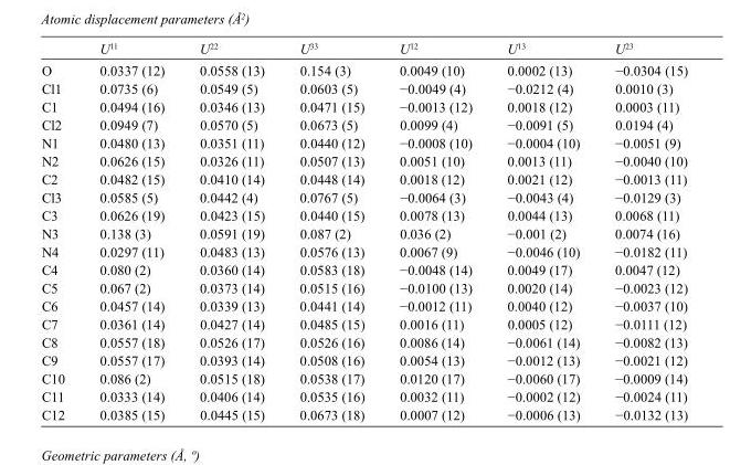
<table><thead><tr><td></td><td>U<sup>11</sup></td><td>U<sup>22</sup></td><td>U<sup>33</sup></td><td>U<sup>12</sup></td><td>U<sup>13</sup></td><td>U<sup>23</sup></td></tr></thead><tbody><tr><td>O</td><td>0.0337 (12)</td><td>0.0558 (13)</td><td>0.154 (3)</td><td>0.0049 (10)</td><td>0.0002 (13)</td><td>−0.0304 (15)</td></tr><tr><td>Cl1</td><td>0.0735 (6)</td><td>0.0549 (5)</td><td>0.0603 (5)</td><td>−0.0049 (4)</td><td>−0.0212 (4)</td><td>0.0010 (3)</td></tr><tr><td>C1</td><td>0.0494 (16)</td><td>0.0346 (13)</td><td>0.0471 (15)</td><td>−0.0013 (12)</td><td>0.0018 (12)</td><td>0.0003 (11)</td></tr><tr><td>Cl2</td><td>0.0949 (7)</td><td>0.0570 (5)</td><td>0.0673 (5)</td><td>0.0099 (4)</td><td>−0.0091 (5)</td><td>0.0194 (4)</td></tr><tr><td>N1</td><td>0.0480 (13)</td><td>0.0351 (11)</td><td>0.0440 (12)</td><td>−0.0008 (10)</td><td>−0.0004 (10)</td><td>−0.0051 (9)</td></tr><tr><td>N2</td><td>0.0626 (15)</td><td>0.0326 (11)</td><td>0.0507 (13)</td><td>0.0051 (10)</td><td>0.0013 (11)</td><td>−0.0040 (10)</td></tr><tr><td>C2</td><td>0.0482 (15)</td><td>0.0410 (14)</td><td>0.0448 (14)</td><td>0.0018 (12)</td><td>0.0021 (12)</td><td>−0.0013 (11)</td></tr><tr><td>Cl3</td><td>0.0585 (5)</td><td>0.0442 (4)</td><td>0.0767 (5)</td><td>−0.0064 (3)</td><td>−0.0043 (4)</td><td>−0.0129 (3)</td></tr><tr><td>C3</td><td>0.0626 (19)</td><td>0.0423 (15)</td><td>0.0440 (15)</td><td>0.0078 (13)</td><td>0.0044 (13)</td><td>0.0068 (11)</td></tr><tr><td>N3</td><td>0.138 (3)</td><td>0.0591 (19)</td><td>0.087 (2)</td><td>0.036 (2)</td><td>−0.001 (2)</td><td>0.0074 (16)</td></tr><tr><td>N4</td><td>0.0297 (11)</td><td>0.0483 (13)</td><td>0.0576 (13)</td><td>0.0067 (9)</td><td>−0.0046 (10)</td><td>−0.0182 (11)</td></tr><tr><td>C4</td><td>0.080 (2)</td><td>0.0360 (14)</td><td>0.0583 (18)</td><td>−0.0048 (14)</td><td>0.0049 (17)</td><td>0.0047 (12)</td></tr><tr><td>C5</td><td>0.067 (2)</td><td>0.0373 (14)</td><td>0.0515 (16)</td><td>−0.0100 (13)</td><td>0.0020 (14)</td><td>−0.0023 (12)</td></tr><tr><td>C6</td><td>0.0457 (14)</td><td>0.0339 (13)</td><td>0.0441 (14)</td><td>−0.0012 (11)</td><td>0.0040 (12)</td><td>−0.0037 (10)</td></tr><tr><td>C7</td><td>0.0361 (14)</td><td>0.0427 (14)</td><td>0.0485 (15)</td><td>0.0016 (11)</td><td>0.0005 (12)</td><td>−0.0111 (12)</td></tr><tr><td>C8</td><td>0.0557 (18)</td><td>0.0526 (17)</td><td>0.0526 (16)</td><td>0.0086 (14)</td><td>−0.0061 (14)</td><td>−0.0082 (13)</td></tr><tr><td>C9</td><td>0.0557 (17)</td><td>0.0393 (14)</td><td>0.0508 (16)</td><td>0.0054 (13)</td><td>−0.0012 (13)</td><td>−0.0021 (12)</td></tr><tr><td>C10</td><td>0.086 (2)</td><td>0.0515 (18)</td><td>0.0538 (17)</td><td>0.0120 (17)</td><td>−0.0060 (17)</td><td>−0.0009 (14)</td></tr><tr><td>C11</td><td>0.0333 (14)</td><td>0.0406 (14)</td><td>0.0535 (16)</td><td>0.0032 (11)</td><td>−0.0002 (12)</td><td>−0.0024 (11)</td></tr><tr><td>C12</td><td>0.0385 (15)</td><td>0.0445 (15)</td><td>0.0673 (18)</td><td>0.0007 (12)</td><td>−0.0006 (13)</td><td>−0.0132 (13)</td></tr></tbody></table>